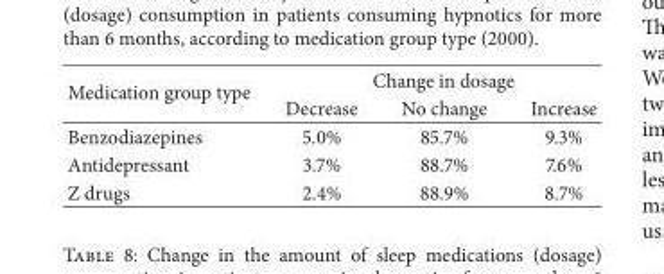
<table><thead><tr><td rowspan="2">Medication group type</td><td colspan="3">Change in dosage</td></tr><tr><td>Decrease</td><td>No change</td><td>Increase</td></tr></thead><tbody><tr><td>Benzodiazepines</td><td>5.0%</td><td>85.7%</td><td>9.3%</td></tr><tr><td>Antidepressant</td><td>3.7%</td><td>88.7%</td><td>7.6%</td></tr><tr><td>Z drugs</td><td>2.4%</td><td>88.9%</td><td>8.7%</td></tr></tbody></table>